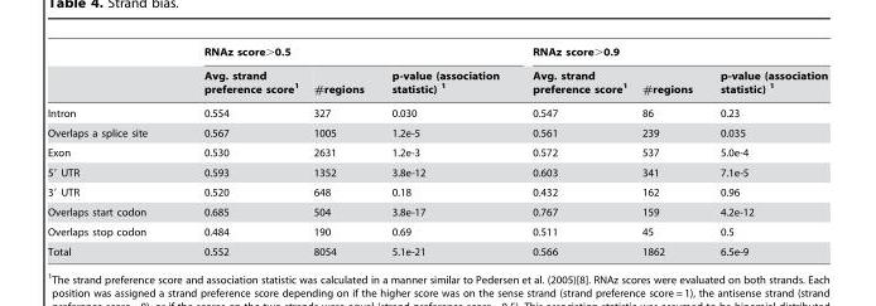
<table><thead><tr><td rowspan="2"></td><td colspan="3">RNAz score&gt;0.5</td><td colspan="3">RNAz score&gt;0.9</td></tr><tr><td>Avg. strand preference score<sup>1</sup></td><td>#regions</td><td>p-value (association statistic) 1</td><td>Avg. strand preference score<sup>1</sup></td><td>#regions</td><td>p-value (association statistic) 1</td></tr></thead><tbody><tr><td>Intron</td><td>0.554</td><td>327</td><td>0.030</td><td>0.547</td><td>86</td><td>0.23</td></tr><tr><td>Overlaps a splice site</td><td>0.567</td><td>1005</td><td>1.2e-5</td><td>0.561</td><td>239</td><td>0.035</td></tr><tr><td>Exon</td><td>0.530</td><td>2631</td><td>1.2e-3</td><td>0.572</td><td>537</td><td>5.0e-4</td></tr><tr><td>5′ UTR</td><td>0.593</td><td>1352</td><td>3.8e-12</td><td>0.603</td><td>341</td><td>7.1e-5</td></tr><tr><td>3′ UTR</td><td>0.520</td><td>648</td><td>0.18</td><td>0.432</td><td>162</td><td>0.96</td></tr><tr><td>Overlaps start codon</td><td>0.685</td><td>504</td><td>3.8e-17</td><td>0.767</td><td>159</td><td>4.2e-12</td></tr><tr><td>Overlaps stop codon</td><td>0.484</td><td>190</td><td>0.69</td><td>0.511</td><td>45</td><td>0.5</td></tr><tr><td>Total</td><td>0.552</td><td>8054</td><td>5.1e-21</td><td>0.566</td><td>1862</td><td>6.5e-9</td></tr></tbody></table>